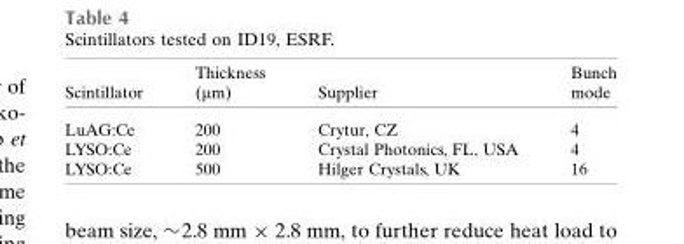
<table><thead><tr><td>Scintillator</td><td>Thickness (µm)</td><td>Supplier</td><td>Bunch mode</td></tr></thead><tbody><tr><td>LuAG:Ce</td><td>200</td><td>Crytur, CZ</td><td>4</td></tr><tr><td>LYSO:Ce</td><td>200</td><td>Crystal Photonics, FL, USA</td><td>4</td></tr><tr><td>LYSO:Ce</td><td>500</td><td>Hilger Crystals, UK</td><td>16</td></tr></tbody></table>